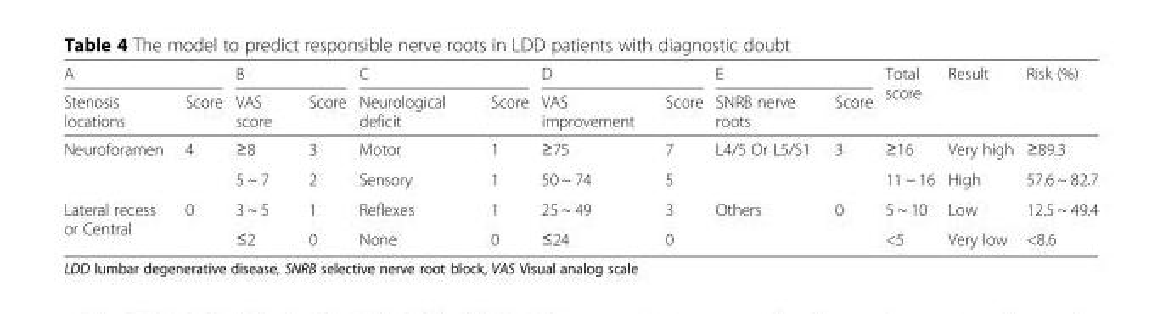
<table><thead><tr><td colspan="2">A</td><td colspan="2">B</td><td colspan="2">C</td><td colspan="2">D</td><td colspan="2">E</td><td rowspan="2">Total score</td><td rowspan="2">Result</td><td rowspan="2">Risk (%)</td></tr><tr><td>Stenosis locations</td><td>Score</td><td>VAS score</td><td>Score</td><td>Neurological deficit</td><td>Score</td><td>VAS improvement</td><td>Score</td><td>SNRB nerve roots</td><td>Score</td></tr></thead><tbody><tr><td rowspan="2">Neuroforamen</td><td rowspan="2">4</td><td>≥8</td><td>3</td><td>Motor</td><td>1</td><td>≥75</td><td>7</td><td rowspan="2">L4/5 Or L5/S1</td><td rowspan="2">3</td><td>≥16</td><td>Very high</td><td>≥89.3</td></tr><tr><td>5 ~ 7</td><td>2</td><td>Sensory</td><td>1</td><td>50 ~ 74</td><td>5</td><td>11 ~ 16</td><td>High</td><td>57.6 ~ 82.7</td></tr><tr><td rowspan="2">Lateral recess or Central</td><td rowspan="2">0</td><td>3 ~ 5</td><td>1</td><td>Reflexes</td><td>1</td><td>25 ~ 49</td><td>3</td><td rowspan="2">Others</td><td rowspan="2">0</td><td>5 ~ 10</td><td>Low</td><td>12.5 ~ 49.4</td></tr><tr><td>≤2</td><td>0</td><td>None</td><td>0</td><td>≤24</td><td>0</td><td>&lt;5</td><td>Very low</td><td>&lt;8.6</td></tr></tbody></table>